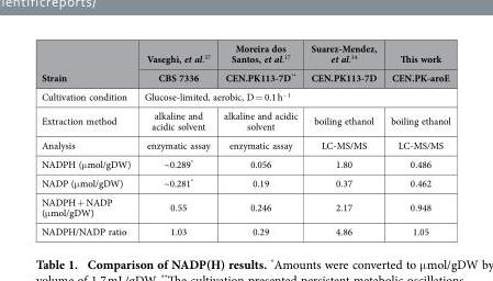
<table><thead><tr><td rowspan="2">Strain</td><td rowspan="2">Vaseghi, et al.<sup>37</sup> CBS 7336</td><td rowspan="2">Moreira dos Santos, et al.17 CEN.PK113-7D**</td><td rowspan="2">Suarez-Mendez, et al.34 CEN.PK113-7D</td><td rowspan="2">This work CEN.PK-aroE</td></tr><tr></tr></thead><tbody><tr><td>Cultivation condition</td><td colspan="4">Glucose-limited, aerobic, D = 0.1 h<sup>−1</sup></td></tr><tr><td>Extraction method</td><td>alkaline and acidic solvent</td><td>alkaline and acidic solvent</td><td>boiling ethanol</td><td>boiling ethanol</td></tr><tr><td>Analysis</td><td>enzymatic assay</td><td>enzymatic assay</td><td>LC-MS/MS</td><td>LC-MS/MS</td></tr><tr><td>NADPH (μ mol/gDW)</td><td>~0.289*</td><td>0.056</td><td>1.80</td><td>0.486</td></tr><tr><td>NADP (μ mol/gDW)</td><td>~0.281*</td><td>0.19</td><td>0.37</td><td>0.462</td></tr><tr><td>NADPH + NADP (μ mol/gDW)</td><td>0.55</td><td>0.246</td><td>2.17</td><td>0.948</td></tr><tr><td>NADPH/NADP ratio</td><td>1.03</td><td>0.29</td><td>4.86</td><td>1.05</td></tr></tbody></table>